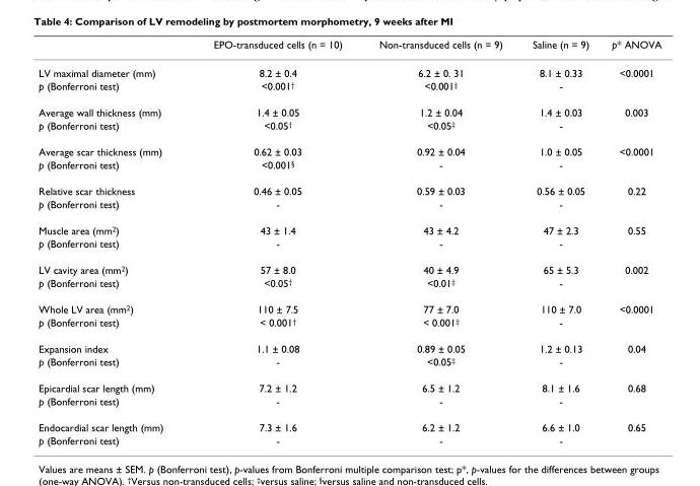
<table><thead><tr><td></td><td>EPO-transduced cells (n = 10)</td><td>Non-transduced cells (n = 9)</td><td>Saline (n = 9)</td><td>p* ANOVA</td></tr></thead><tbody><tr><td>LV maximal diameter (mm)</td><td>8.2 ± 0.4</td><td>6.2 ± 0. 31</td><td>8.1 ± 0.33</td><td>&lt;0.0001</td></tr><tr><td>p (Bonferroni test)</td><td>&lt;0.001<sup>†</sup></td><td>&lt;0.001<sup>‡</sup></td><td>-</td><td></td></tr><tr><td>Average wall thickness (mm)</td><td>1.4 ± 0.05</td><td>1.2 ± 0.04</td><td>1.4 ± 0.03</td><td>0.003</td></tr><tr><td>p (Bonferroni test)</td><td>&lt;0.05<sup>†</sup></td><td>&lt;0.05<sup>‡</sup></td><td>-</td><td></td></tr><tr><td>Average scar thickness (mm)</td><td>0.62 ± 0.03</td><td>0.92 ± 0.04</td><td>1.0 ± 0.05</td><td>&lt;0.0001</td></tr><tr><td>p (Bonferroni test)</td><td>&lt;0.001<sup>§</sup></td><td>-</td><td>-</td><td></td></tr><tr><td>Relative scar thickness</td><td>0.46 ± 0.05</td><td>0.59 ± 0.03</td><td>0.56 ± 0.05</td><td>0.22</td></tr><tr><td>p (Bonferroni test)</td><td>-</td><td>-</td><td>-</td><td></td></tr><tr><td>Muscle area (mm<sup>2</sup>)</td><td>43 ± 1.4</td><td>43 ± 4.2</td><td>47 ± 2.3</td><td>0.55</td></tr><tr><td>p (Bonferroni test)</td><td>-</td><td>-</td><td>-</td><td></td></tr><tr><td>LV cavity area (mm<sup>2</sup>)</td><td>57 ± 8.0</td><td>40 ± 4.9</td><td>65 ± 5.3</td><td>0.002</td></tr><tr><td>p (Bonferroni test)</td><td>&lt;0.05<sup>†</sup></td><td>&lt;0.01<sup>‡</sup></td><td>-</td><td></td></tr><tr><td>Whole LV area (mm<sup>2</sup>)</td><td>110 ± 7.5</td><td>77 ± 7.0</td><td>110 ± 7.0</td><td>&lt;0.0001</td></tr><tr><td>p (Bonferroni test)</td><td>&lt; 0.001<sup>†</sup></td><td>&lt; 0.001<sup>‡</sup></td><td>-</td><td></td></tr><tr><td>Expansion index</td><td>1.1 ± 0.08</td><td>0.89 ± 0.05</td><td>1.2 ± 0.13</td><td>0.04</td></tr><tr><td>p (Bonferroni test)</td><td>-</td><td>&lt;0.05<sup>‡</sup></td><td>-</td><td></td></tr><tr><td>Epicardial scar length (mm)</td><td>7.2 ± 1.2</td><td>6.5 ± 1.2</td><td>8.1 ± 1.6</td><td>0.68</td></tr><tr><td>p (Bonferroni test)</td><td>-</td><td>-</td><td>-</td><td></td></tr><tr><td>Endocardial scar length (mm)</td><td>7.3 ± 1.6</td><td>6.2 ± 1.2</td><td>6.6 ± 1.0</td><td>0.65</td></tr><tr><td>p (Bonferroni test)</td><td>-</td><td>-</td><td>-</td><td></td></tr></tbody></table>